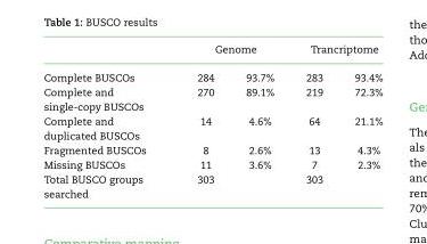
<table><thead><tr><td rowspan="2">Complete BUSCOs</td><td colspan="2">Genome</td><td colspan="2">Trancriptome</td></tr><tr><td>284</td><td>93.7%</td><td>283</td><td>93.4%</td></tr></thead><tbody><tr><td>Complete and single-copy BUSCOs</td><td>270</td><td>89.1%</td><td>219</td><td>72.3%</td></tr><tr><td>Complete and duplicated BUSCOs</td><td>14</td><td>4.6%</td><td>64</td><td>21.1%</td></tr><tr><td>Fragmented BUSCOs</td><td>8</td><td>2.6%</td><td>13</td><td>4.3%</td></tr><tr><td>Missing BUSCOs</td><td>11</td><td>3.6%</td><td>7</td><td>2.3%</td></tr><tr><td>Total BUSCO groups searched</td><td>303</td><td></td><td>303</td><td></td></tr></tbody></table>